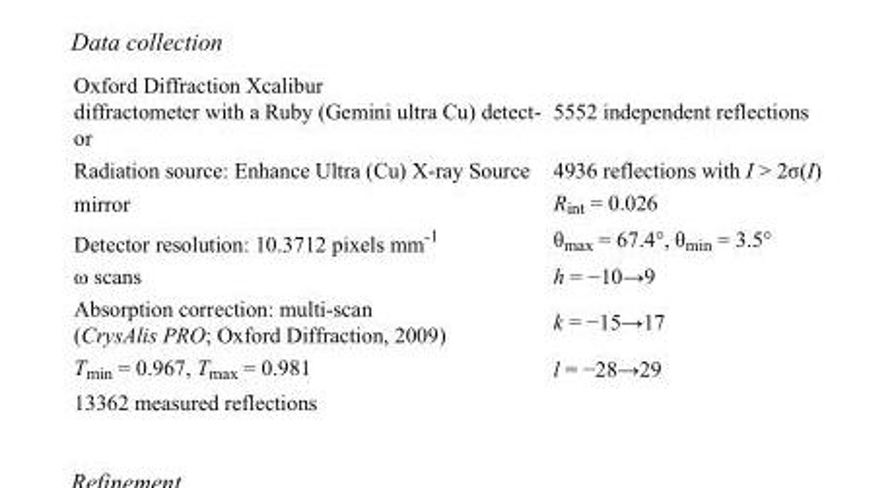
<table><tbody><tr><td>Oxford Diffraction Xcalibur diffractometer with a Ruby (Gemini ultra Cu) detect- or</td><td>5552 independent reflections</td></tr><tr><td>Radiation source: Enhance Ultra (Cu) X-ray Source</td><td>4936 reflections with I &gt; 2σ(I)</td></tr><tr><td>mirror</td><td>R<sub>int</sub> = 0.026</td></tr><tr><td>Detector resolution: 10.3712 pixels mm<sup>-1</sup></td><td>θ<sub>max</sub> = 67.4°, θ<sub>min</sub> = 3.5°</td></tr><tr><td>ω scans</td><td>h = −10→9</td></tr><tr><td>Absorption correction: multi-scan (CrysAlis PRO; Oxford Diffraction, 2009)</td><td>k = −15→17</td></tr><tr><td>T<sub>min</sub> = 0.967, T<sub>max</sub> = 0.981</td><td>l = −28→29</td></tr><tr><td>13362 measured reflections</td><td></td></tr></tbody></table>